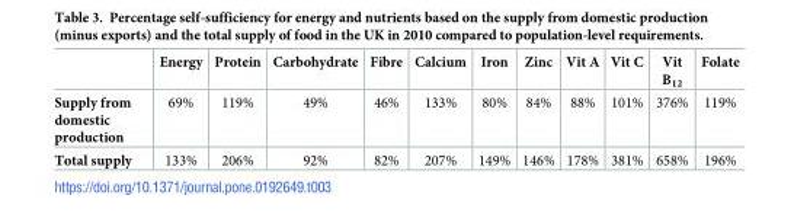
<table><thead><tr><td></td><td>Energy</td><td>Protein</td><td>Carbohydrate</td><td>Fibre</td><td>Calcium</td><td>Iron</td><td>Zinc</td><td>Vit A</td><td>Vit C</td><td>Vit B<sub>12</sub></td><td>Folate</td></tr></thead><tbody><tr><td>Supply from domestic production</td><td>69%</td><td>119%</td><td>49%</td><td>46%</td><td>133%</td><td>80%</td><td>84%</td><td>88%</td><td>101%</td><td>376%</td><td>119%</td></tr><tr><td>Total supply</td><td>133%</td><td>206%</td><td>92%</td><td>82%</td><td>207%</td><td>149%</td><td>146%</td><td>178%</td><td>381%</td><td>658%</td><td>196%</td></tr></tbody></table>